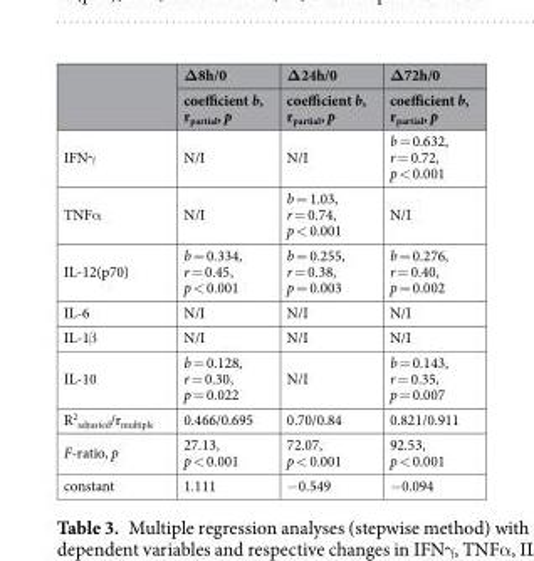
<table><thead><tr><td rowspan="2"></td><td rowspan="2">Δ8h/0 coefficient b, r<sub>partial</sub>, p</td><td rowspan="2">Δ24h/0 coefficient b, r<sub>partial</sub>, p</td><td rowspan="2">Δ72h/0 coefficient b, r<sub>partial</sub>, p</td></tr><tr></tr></thead><tbody><tr><td>IFNγ</td><td>N/I</td><td>N/I</td><td>b = 0.632, r = 0.72, p &lt; 0.001</td></tr><tr><td>TNFα</td><td>N/I</td><td>b = 1.03, r = 0.74, p &lt; 0.001</td><td>N/I</td></tr><tr><td>IL-12(p70)</td><td>b = 0.334, r = 0.45, p &lt; 0.001</td><td>b = 0.255, r = 0.38, p = 0.003</td><td>b = 0.276, r = 0.40, p = 0.002</td></tr><tr><td>IL-6</td><td>N/I</td><td>N/I</td><td>N/I</td></tr><tr><td>IL-1β</td><td>N/I</td><td>N/I</td><td>N/I</td></tr><tr><td>IL-10</td><td>b = 0.128, r = 0.30, p = 0.022</td><td>N/I</td><td>b = 0.143, r = 0.35, p = 0.007</td></tr><tr><td>R<sup>2</sup> <sub>adjusted</sub>/r<sub>multiple</sub></td><td>0.466/0.695</td><td>0.70/0.84</td><td>0.821/0.911</td></tr><tr><td>F-ratio, p</td><td>27.13, p &lt; 0.001</td><td>72.07, p &lt; 0.001</td><td>92.53, p &lt; 0.001</td></tr><tr><td>constant</td><td>1.111</td><td>−0.549</td><td>−0.094</td></tr></tbody></table>